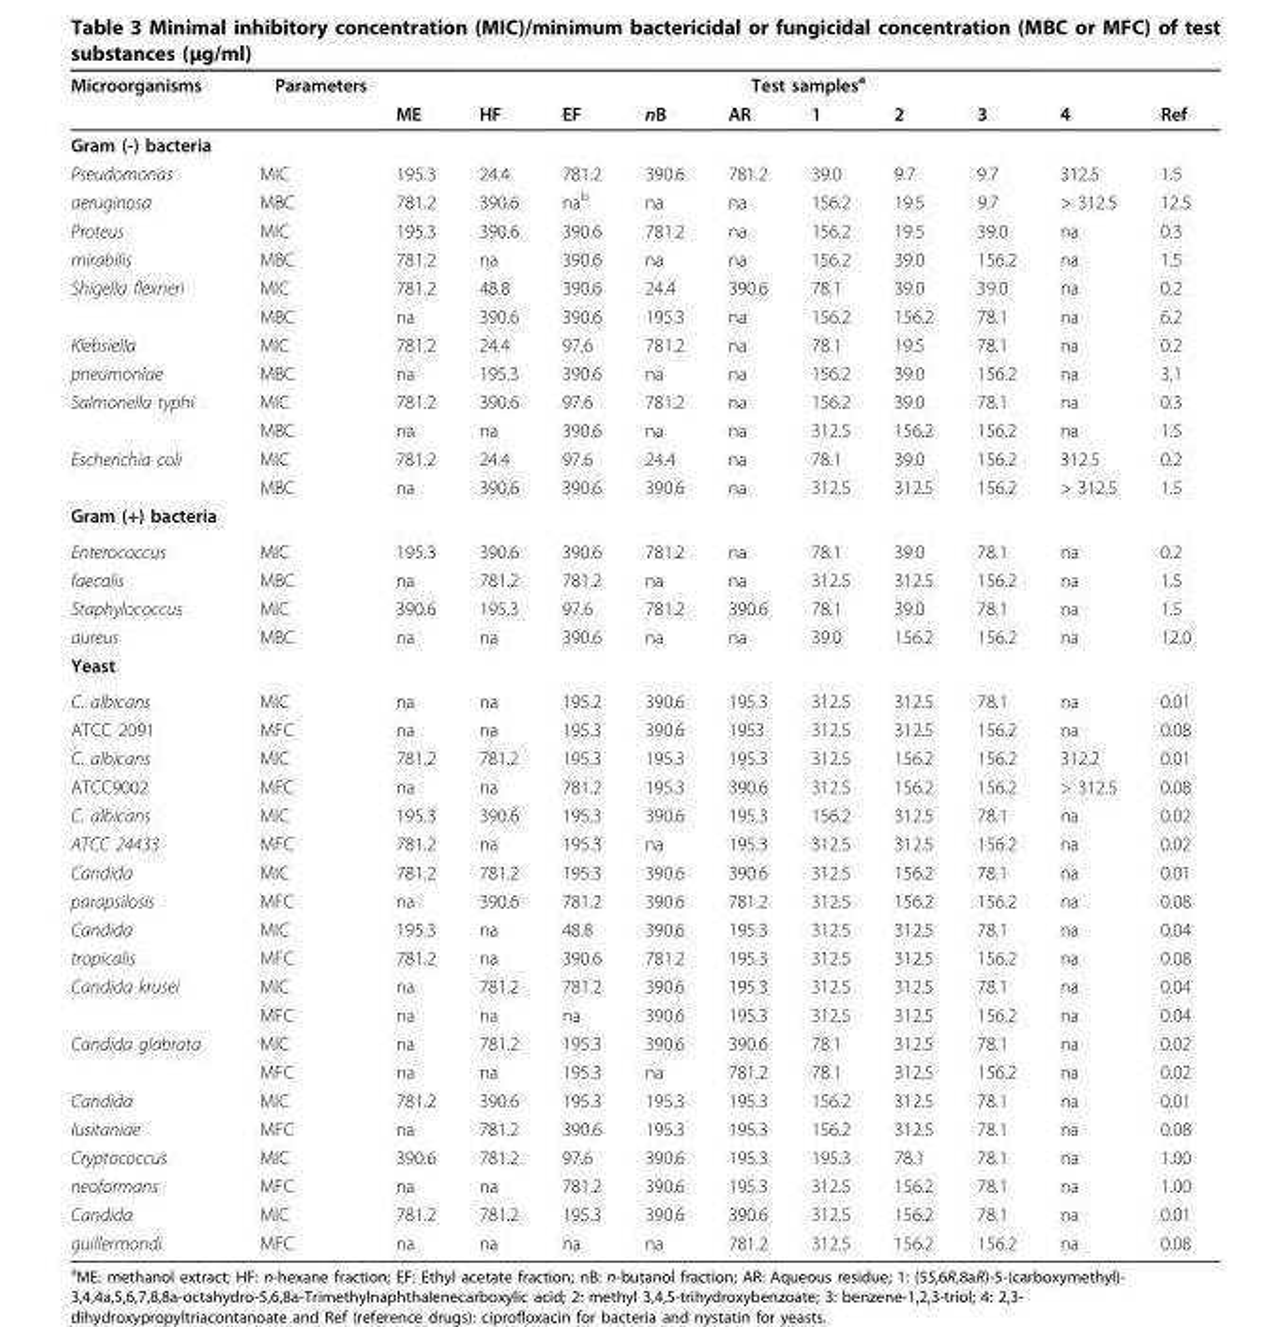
<table><thead><tr><td rowspan="2">Microorganisms</td><td rowspan="2">Parameters</td><td colspan="10">Test samples<sup>a</sup></td></tr><tr><td>ME</td><td>HF</td><td>EF</td><td>nB</td><td>AR</td><td>1</td><td>2</td><td>3</td><td>4</td><td>Ref</td></tr></thead><tbody><tr><td colspan="12">Gram (-) bacteria</td></tr><tr><td>Pseudomonas</td><td>MIC</td><td>195.3</td><td>24.4</td><td>781.2</td><td>390.6</td><td>781.2</td><td>39.0</td><td>9.7</td><td>9.7</td><td>312.5</td><td>1.5</td></tr><tr><td>aeruginosa</td><td>MBC</td><td>781.2</td><td>390.6</td><td>na<sup>b</sup></td><td>na</td><td>na</td><td>156.2</td><td>19.5</td><td>9.7</td><td>&gt; 312.5</td><td>12.5</td></tr><tr><td>Proteus</td><td>MIC</td><td>195.3</td><td>390.6</td><td>390.6</td><td>781.2</td><td>na</td><td>156.2</td><td>19.5</td><td>39.0</td><td>na</td><td>0.3</td></tr><tr><td>mirabilis</td><td>MBC</td><td>781.2</td><td>na</td><td>390.6</td><td>na</td><td>na</td><td>156.2</td><td>39.0</td><td>156.2</td><td>na</td><td>1.5</td></tr><tr><td rowspan="2">Shigella flexneri</td><td>MIC</td><td>781.2</td><td>48.8</td><td>390.6</td><td>24.4</td><td>390.6</td><td>78.1</td><td>39.0</td><td>39.0</td><td>na</td><td>0.2</td></tr><tr><td>MBC</td><td>na</td><td>390.6</td><td>390.6</td><td>195.3</td><td>na</td><td>156.2</td><td>156.2</td><td>78.1</td><td>na</td><td>6.2</td></tr><tr><td>Klebsiella</td><td>MIC</td><td>781.2</td><td>24.4</td><td>97.6</td><td>781.2</td><td>na</td><td>78.1</td><td>19.5</td><td>78.1</td><td>na</td><td>0.2</td></tr><tr><td>pneumoniae</td><td>MBC</td><td>na</td><td>195.3</td><td>390.6</td><td>na</td><td>na</td><td>156.2</td><td>39.0</td><td>156.2</td><td>na</td><td>3.1</td></tr><tr><td rowspan="2">Salmonella typhi</td><td>MIC</td><td>781.2</td><td>390.6</td><td>97.6</td><td>781.2</td><td>na</td><td>156.2</td><td>39.0</td><td>78.1</td><td>na</td><td>0.3</td></tr><tr><td>MBC</td><td>na</td><td>na</td><td>390.6</td><td>na</td><td>na</td><td>312.5</td><td>156.2</td><td>156.2</td><td>na</td><td>1.5</td></tr><tr><td rowspan="2">Escherichia coli</td><td>MIC</td><td>781.2</td><td>24.4</td><td>97.6</td><td>24.4</td><td>na</td><td>78.1</td><td>39.0</td><td>156.2</td><td>312.5</td><td>0.2</td></tr><tr><td>MBC</td><td>na</td><td>390.6</td><td>390.6</td><td>390.6</td><td>na</td><td>312.5</td><td>312.5</td><td>156.2</td><td>&gt; 312.5</td><td>1.5</td></tr><tr><td colspan="12">Gram (+) bacteria</td></tr><tr><td>Enterococcus</td><td>MIC</td><td>195.3</td><td>390.6</td><td>390.6</td><td>781.2</td><td>na</td><td>78.1</td><td>39.0</td><td>78.1</td><td>na</td><td>0.2</td></tr><tr><td>faecalis</td><td>MBC</td><td>na</td><td>781.2</td><td>781.2</td><td>na</td><td>na</td><td>312.5</td><td>312.5</td><td>156.2</td><td>na</td><td>1.5</td></tr><tr><td>Staphylococcus</td><td>MIC</td><td>390.6</td><td>195.3</td><td>97.6</td><td>781.2</td><td>390.6</td><td>78.1</td><td>39.0</td><td>78.1</td><td>na</td><td>1.5</td></tr><tr><td>aureus</td><td>MBC</td><td>na</td><td>na</td><td>390.6</td><td>na</td><td>na</td><td>39.0</td><td>156.2</td><td>156.2</td><td>na</td><td>12.0</td></tr><tr><td colspan="12">Yeast</td></tr><tr><td>C. albicans</td><td>MIC</td><td>na</td><td>na</td><td>195.2</td><td>390.6</td><td>195.3</td><td>312.5</td><td>312.5</td><td>78.1</td><td>na</td><td>0.01</td></tr><tr><td>ATCC 2091</td><td>MFC</td><td>na</td><td>na</td><td>195.3</td><td>390.6</td><td>1953</td><td>312.5</td><td>312.5</td><td>156.2</td><td>na</td><td>0.08</td></tr><tr><td>C. albicans</td><td>MIC</td><td>781.2</td><td>781.2</td><td>195.3</td><td>195.3</td><td>195.3</td><td>312.5</td><td>156.2</td><td>156.2</td><td>312.2</td><td>0.01</td></tr><tr><td>ATCC9002</td><td>MFC</td><td>na</td><td>na</td><td>781.2</td><td>195.3</td><td>390.6</td><td>312.5</td><td>156.2</td><td>156.2</td><td>&gt; 312.5</td><td>0.08</td></tr><tr><td>C. albicans</td><td>MIC</td><td>195.3</td><td>390.6</td><td>195.3</td><td>390.6</td><td>195.3</td><td>156.2</td><td>312.5</td><td>78.1</td><td>na</td><td>0.02</td></tr><tr><td>ATCC 24433</td><td>MFC</td><td>781.2</td><td>na</td><td>195.3</td><td>na</td><td>195.3</td><td>312.5</td><td>312.5</td><td>156.2</td><td>na</td><td>0.02</td></tr><tr><td>Candida</td><td>MIC</td><td>781.2</td><td>781.2</td><td>195.3</td><td>390.6</td><td>390.6</td><td>312.5</td><td>156.2</td><td>78.1</td><td>na</td><td>0.01</td></tr><tr><td>parapsilosis</td><td>MFC</td><td>na</td><td>390.6</td><td>781.2</td><td>390.6</td><td>781.2</td><td>312.5</td><td>156.2</td><td>156.2</td><td>na</td><td>0.08</td></tr><tr><td>Candida</td><td>MIC</td><td>195.3</td><td>na</td><td>48.8</td><td>390.6</td><td>195.3</td><td>312.5</td><td>312.5</td><td>78.1</td><td>na</td><td>0.04</td></tr><tr><td>tropicalis</td><td>MFC</td><td>781.2</td><td>na</td><td>390.6</td><td>781.2</td><td>195.3</td><td>312.5</td><td>312.5</td><td>156.2</td><td>na</td><td>0.08</td></tr><tr><td rowspan="2">Candida krusei</td><td>MIC</td><td>na</td><td>781.2</td><td>781.2</td><td>390.6</td><td>195.3</td><td>312.5</td><td>312.5</td><td>78.1</td><td>na</td><td>0.04</td></tr><tr><td>MFC</td><td>na</td><td>na</td><td>na</td><td>390.6</td><td>195.3</td><td>312.5</td><td>312.5</td><td>156.2</td><td>na</td><td>0.04</td></tr><tr><td rowspan="2">Candida glabrata</td><td>MIC</td><td>na</td><td>781.2</td><td>195.3</td><td>390.6</td><td>390.6</td><td>78.1</td><td>312.5</td><td>78.1</td><td>na</td><td>0.02</td></tr><tr><td>MFC</td><td>na</td><td>na</td><td>195.3</td><td>na</td><td>781.2</td><td>78.1</td><td>312.5</td><td>156.2</td><td>na</td><td>0.02</td></tr><tr><td>Candida</td><td>MIC</td><td>781.2</td><td>390.6</td><td>195.3</td><td>195.3</td><td>195.3</td><td>156.2</td><td>312.5</td><td>78.1</td><td>na</td><td>0.01</td></tr><tr><td>lusitaniae</td><td>MFC</td><td>na</td><td>781.2</td><td>390.6</td><td>195.3</td><td>195.3</td><td>156.2</td><td>312.5</td><td>78.1</td><td>na</td><td>0.08</td></tr><tr><td>Cryptococcus</td><td>MIC</td><td>390.6</td><td>781.2</td><td>97.6</td><td>390.6</td><td>195.3</td><td>195.3</td><td>78.1</td><td>78.1</td><td>na</td><td>1.00</td></tr><tr><td>neoformans</td><td>MFC</td><td>na</td><td>na</td><td>781.2</td><td>390.6</td><td>195.3</td><td>312.5</td><td>156.2</td><td>78.1</td><td>na</td><td>1.00</td></tr><tr><td>Candida</td><td>MIC</td><td>781.2</td><td>781.2</td><td>195.3</td><td>390.6</td><td>390.6</td><td>312.5</td><td>156.2</td><td>78.1</td><td>na</td><td>0.01</td></tr><tr><td>guillermondi</td><td>MFC</td><td>na</td><td>na</td><td>na</td><td>na</td><td>781.2</td><td>312.5</td><td>156.2</td><td>156.2</td><td>na</td><td>0.08</td></tr></tbody></table>